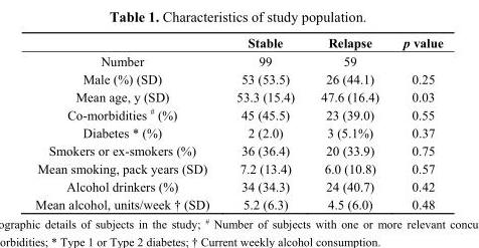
<table><thead><tr><td></td><td>Stable</td><td>Relapse</td><td>p value</td></tr></thead><tbody><tr><td>Number</td><td>99</td><td>59</td><td></td></tr><tr><td>Male (%) (SD)</td><td>53 (53.5)</td><td>26 (44.1)</td><td>0.25</td></tr><tr><td>Mean age, y (SD)</td><td>53.3 (15.4)</td><td>47.6 (16.4)</td><td>0.03</td></tr><tr><td>Co-morbidities <sup>#</sup> (%)</td><td>45 (45.5)</td><td>23 (39.0)</td><td>0.55</td></tr><tr><td>Diabetes * (%)</td><td>2 (2.0)</td><td>3 (5.1%)</td><td>0.37</td></tr><tr><td>Smokers or ex-smokers (%)</td><td>36 (36.4)</td><td>20 (33.9)</td><td>0.75</td></tr><tr><td>Mean smoking, pack years (SD)</td><td>7.2 (13.4)</td><td>6.0 (10.8)</td><td>0.57</td></tr><tr><td>Alcohol drinkers (%)</td><td>34 (34.3)</td><td>24 (40.7)</td><td>0.42</td></tr><tr><td>Mean alcohol, units/week † (SD)</td><td>5.2 (6.3)</td><td>4.5 (6.0)</td><td>0.48</td></tr></tbody></table>